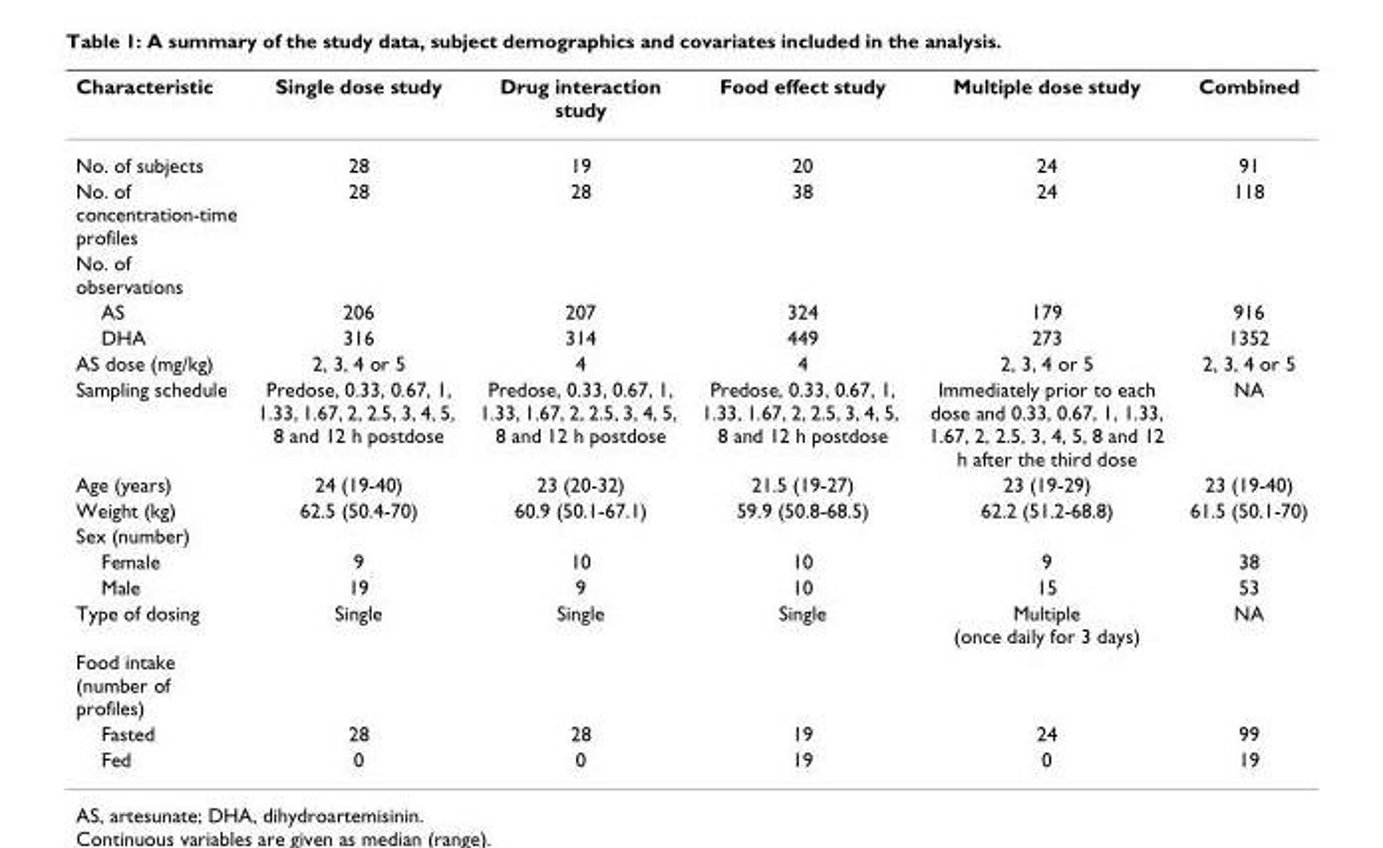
<table><thead><tr><td>Characteristic</td><td>Single dose study</td><td>Drug interaction study</td><td>Food effect study</td><td>Multiple dose study</td><td>Combined</td></tr></thead><tbody><tr><td>No. of subjects</td><td>28</td><td>19</td><td>20</td><td>24</td><td>91</td></tr><tr><td>No. of concentration-time profiles</td><td>28</td><td>28</td><td>38</td><td>24</td><td>118</td></tr><tr><td colspan="6">No. of observations</td></tr><tr><td>AS</td><td>206</td><td>207</td><td>324</td><td>179</td><td>916</td></tr><tr><td>DHA</td><td>316</td><td>314</td><td>449</td><td>273</td><td>1352</td></tr><tr><td>AS dose (mg/kg)</td><td>2, 3, 4 or 5</td><td>4</td><td>4</td><td>2, 3, 4 or 5</td><td>2, 3, 4 or 5</td></tr><tr><td>Sampling schedule</td><td>Predose, 0.33, 0.67, 1, 1.33, 1.67, 2, 2.5, 3, 4, 5, 8 and 12 h postdose</td><td>Predose, 0.33, 0.67, 1, 1.33, 1.67, 2, 2.5, 3, 4, 5, 8 and 12 h postdose</td><td>Predose, 0.33, 0.67, 1, 1.33, 1.67, 2, 2.5, 3, 4, 5, 8 and 12 h postdose</td><td>Immediately prior to each dose and 0.33, 0.67, 1, 1.33, 1.67, 2, 2.5, 3, 4, 5, 8 and 12 h after the third dose</td><td>NA</td></tr><tr><td>Age (years)</td><td>24 (19-40)</td><td>23 (20-32)</td><td>21.5 (19-27)</td><td>23 (19-29)</td><td>23 (19-40)</td></tr><tr><td>Weight (kg)</td><td>62.5 (50.4-70)</td><td>60.9 (50.1-67.1)</td><td>59.9 (50.8-68.5)</td><td>62.2 (51.2-68.8)</td><td>61.5 (50.1-70)</td></tr><tr><td colspan="6">Sex (number)</td></tr><tr><td>Female</td><td>9</td><td>10</td><td>10</td><td>9</td><td>38</td></tr><tr><td>Male</td><td>19</td><td>9</td><td>10</td><td>15</td><td>53</td></tr><tr><td>Type of dosing</td><td>Single</td><td>Single</td><td>Single</td><td>Multiple (once daily for 3 days)</td><td>NA</td></tr><tr><td colspan="6">Food intake (number of profiles)</td></tr><tr><td>Fasted</td><td>28</td><td>28</td><td>19</td><td>24</td><td>99</td></tr><tr><td>Fed</td><td>0</td><td>0</td><td>19</td><td>0</td><td>19</td></tr></tbody></table>